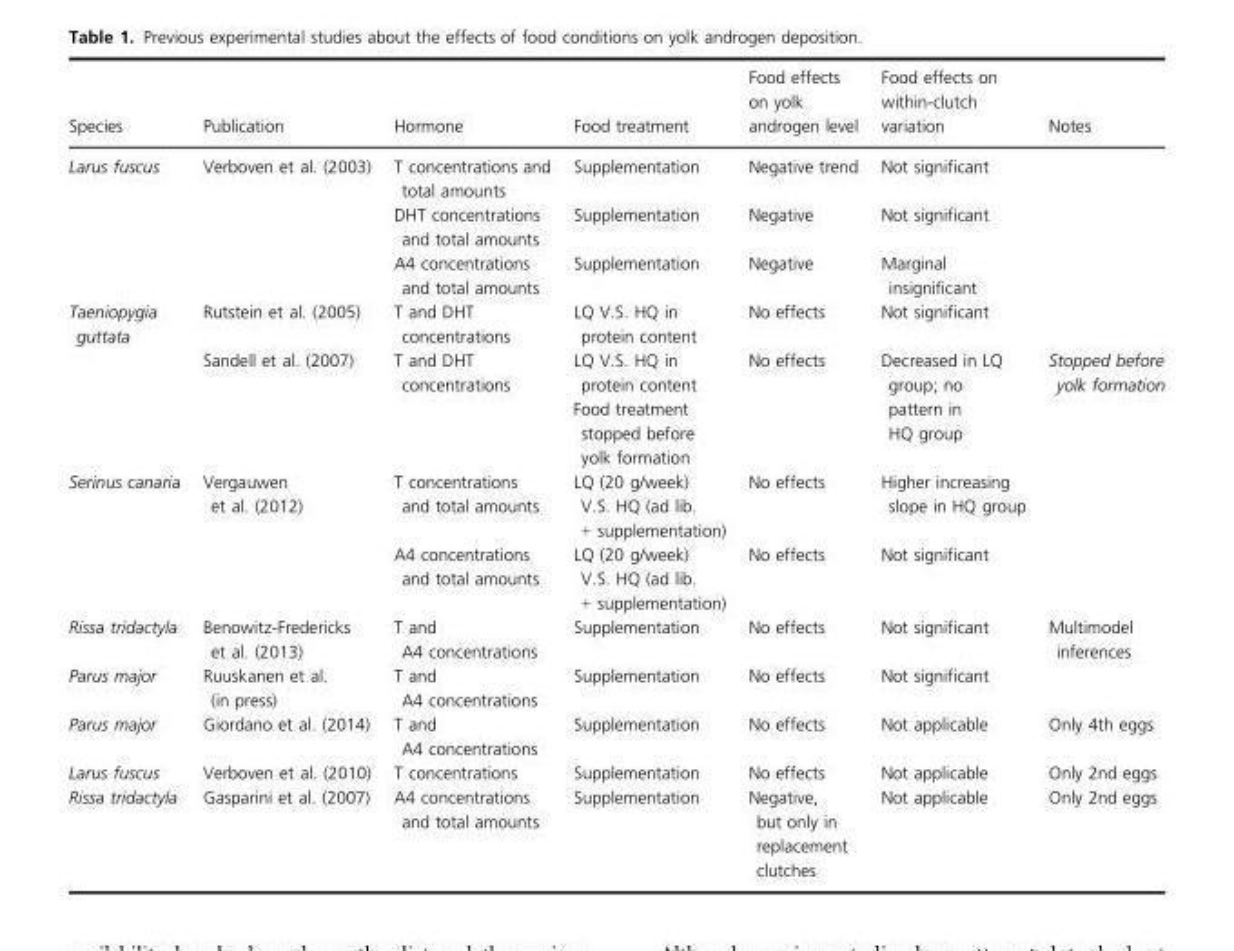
<table><thead><tr><td>Species</td><td>Publication</td><td>Hormone</td><td>Food treatment</td><td>Food effects on yolk androgen level</td><td>Food effects on within-clutch variation</td><td>Notes</td></tr></thead><tbody><tr><td rowspan="3">Larus fuscus</td><td rowspan="3">Verboven et al. (2003)</td><td>T concentrations and total amounts</td><td>Supplementation</td><td>Negative trend</td><td>Not significant</td><td></td></tr><tr><td>DHT concentrations and total amounts</td><td>Supplementation</td><td>Negative</td><td>Not significant</td><td></td></tr><tr><td>A4 concentrations and total amounts</td><td>Supplementation</td><td>Negative</td><td>Marginal insignificant</td><td></td></tr><tr><td rowspan="2">Taeniopygia guttata</td><td>Rutstein et al. (2005)</td><td>T and DHT concentrations</td><td>LQ V.S. HQ in protein content</td><td>No effects</td><td>Not significant</td><td></td></tr><tr><td>Sandell et al. (2007)</td><td>T and DHT concentrations</td><td>LQ V.S. HQ in protein content Food treatment stopped before yolk formation</td><td>No effects</td><td>Decreased in LQ group; no pattern in HQ group</td><td>Stopped before yolk formation</td></tr><tr><td rowspan="2">Serinus canaria</td><td>Vergauwen et al. (2012)</td><td>T concentrations and total amounts</td><td>LQ (20 g/week) V.S. HQ (ad lib. + supplementation)</td><td>No effects</td><td>Higher increasing slope in HQ group</td><td></td></tr><tr><td></td><td>A4 concentrations and total amounts</td><td>LQ (20 g/week) V.S. HQ (ad lib. + supplementation)</td><td>No effects</td><td>Not significant</td><td></td></tr><tr><td>Rissa tridactyla</td><td>Benowitz-Fredericks et al. (2013)</td><td>T and A4 concentrations</td><td>Supplementation</td><td>No effects</td><td>Not significant</td><td>Multimodel inferences</td></tr><tr><td>Parus major</td><td>Ruuskanen et al. (in press)</td><td>T and A4 concentrations</td><td>Supplementation</td><td>No effects</td><td>Not significant</td><td></td></tr><tr><td>Parus major</td><td>Giordano et al. (2014)</td><td>T and A4 concentrations</td><td>Supplementation</td><td>No effects</td><td>Not applicable</td><td>Only 4th eggs</td></tr><tr><td>Larus fuscus</td><td>Verboven et al. (2010)</td><td>T concentrations</td><td>Supplementation</td><td>No effects</td><td>Not applicable</td><td>Only 2nd eggs</td></tr><tr><td>Rissa tridactyla</td><td>Gasparini et al. (2007)</td><td>A4 concentrations and total amounts</td><td>Supplementation</td><td>Negative, but only in replacement clutches</td><td>Not applicable</td><td>Only 2nd eggs</td></tr></tbody></table>